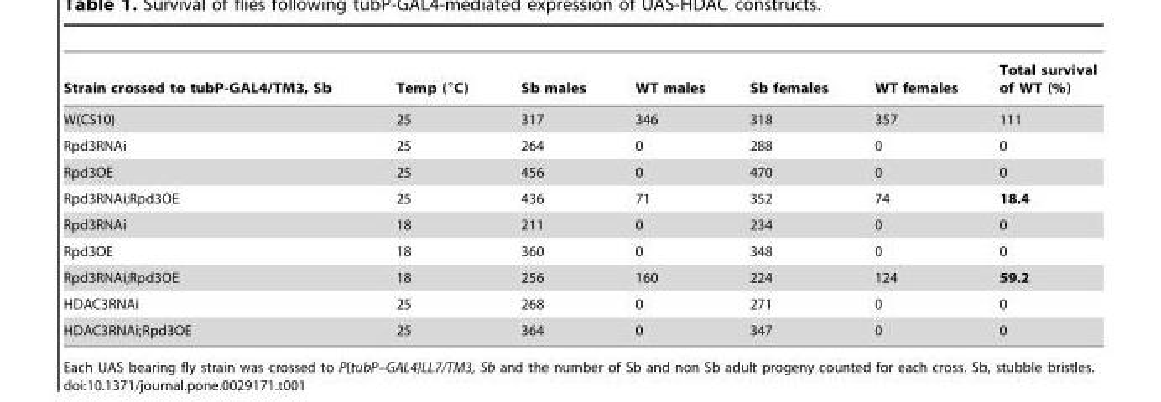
<table><thead><tr><td>Strain crossed to tubP-GAL4/TM3, Sb</td><td>Temp (°C)</td><td>Sb males</td><td>WT males</td><td>Sb females</td><td>WT females</td><td>Total survival of WT (%)</td></tr></thead><tbody><tr><td>W(CS10)</td><td>25</td><td>317</td><td>346</td><td>318</td><td>357</td><td>111</td></tr><tr><td>Rpd3RNAi</td><td>25</td><td>264</td><td>0</td><td>288</td><td>0</td><td>0</td></tr><tr><td>Rpd3OE</td><td>25</td><td>456</td><td>0</td><td>470</td><td>0</td><td>0</td></tr><tr><td>Rpd3RNAi;Rpd3OE</td><td>25</td><td>436</td><td>71</td><td>352</td><td>74</td><td>18.4</td></tr><tr><td>Rpd3RNAi</td><td>18</td><td>211</td><td>0</td><td>234</td><td>0</td><td>0</td></tr><tr><td>Rpd3OE</td><td>18</td><td>360</td><td>0</td><td>348</td><td>0</td><td>0</td></tr><tr><td>Rpd3RNAi;Rpd3OE</td><td>18</td><td>256</td><td>160</td><td>224</td><td>124</td><td>59.2</td></tr><tr><td>HDAC3RNAi</td><td>25</td><td>268</td><td>0</td><td>271</td><td>0</td><td>0</td></tr><tr><td>HDAC3RNAi;Rpd3OE</td><td>25</td><td>364</td><td>0</td><td>347</td><td>0</td><td>0</td></tr></tbody></table>